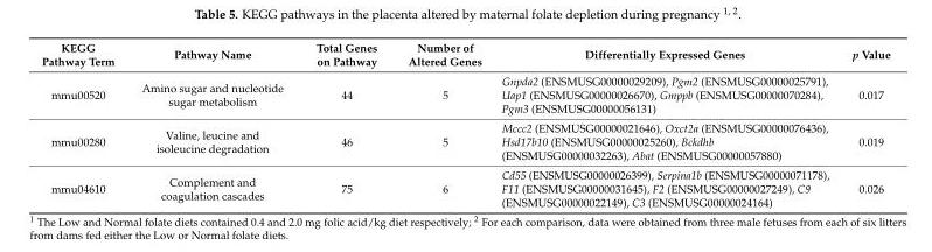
<table><thead><tr><td>KEGG Pathway Term</td><td>Pathway Name</td><td>Total Genes on Pathway</td><td>Number of Altered Genes</td><td>Differentially Expressed Genes</td><td>p Value</td></tr></thead><tbody><tr><td>mmu00520</td><td>Amino sugar and nucleotide sugar metabolism</td><td>44</td><td>5</td><td>Gnpda2 (ENSMUSG00000029209), Pgm2 (ENSMUSG00000025791), Uap1 (ENSMUSG00000026670), Gmppb (ENSMUSG00000070284), Pgm3 (ENSMUSG00000056131)</td><td>0.017</td></tr><tr><td>mmu00280</td><td>Valine, leucine and isoleucine degradation</td><td>46</td><td>5</td><td>Mccc2 (ENSMUSG00000021646), Oxct2a (ENSMUSG00000076436), Hsd17b10 (ENSMUSG00000025260), Bckdhb (ENSMUSG00000032263), Abat (ENSMUSG00000057880)</td><td>0.019</td></tr><tr><td>mmu04610</td><td>Complement and coagulation cascades</td><td>75</td><td>6</td><td>Cd55 (ENSMUSG00000026399), Serpina1b (ENSMUSG00000071178), F11 (ENSMUSG00000031645), F2 (ENSMUSG00000027249), C9 (ENSMUSG00000022149), C3 (ENSMUSG00000024164)</td><td>0.026</td></tr></tbody></table>